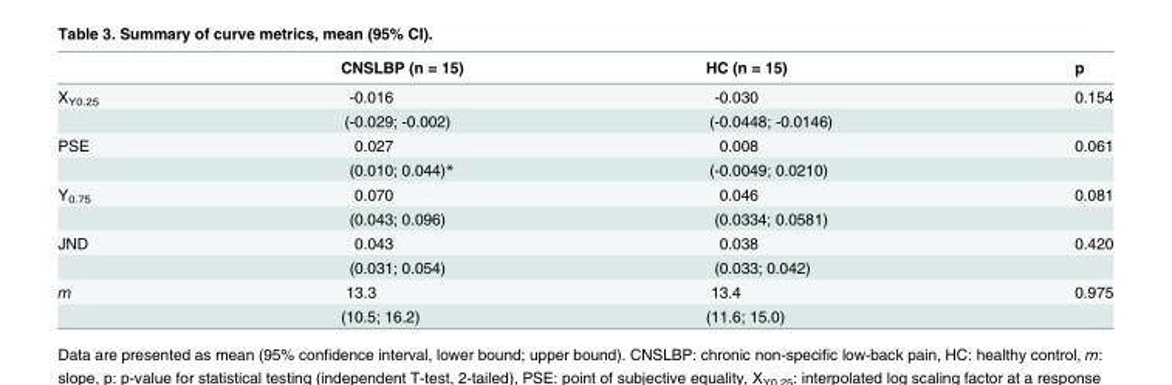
<table><thead><tr><td></td><td>CNSLBP (n = 15)</td><td>HC (n = 15)</td><td>p</td></tr></thead><tbody><tr><td rowspan="2">X<sub>Y0.25</sub></td><td>-0.016</td><td>-0.030</td><td>0.154</td></tr><tr><td>(-0.029; -0.002)</td><td>(-0.0448; -0.0146)</td><td></td></tr><tr><td rowspan="2">PSE</td><td>0.027</td><td>0.008</td><td>0.061</td></tr><tr><td>(0.010; 0.044)*</td><td>(-0.0049; 0.0210)</td><td></td></tr><tr><td rowspan="2">Y<sub>0.75</sub></td><td>0.070</td><td>0.046</td><td>0.081</td></tr><tr><td>(0.043; 0.096)</td><td>(0.0334; 0.0581)</td><td></td></tr><tr><td rowspan="2">JND</td><td>0.043</td><td>0.038</td><td>0.420</td></tr><tr><td>(0.031; 0.054)</td><td>(0.033; 0.042)</td><td></td></tr><tr><td rowspan="2">m</td><td>13.3</td><td>13.4</td><td>0.975</td></tr><tr><td>(10.5; 16.2)</td><td>(11.6; 15.0)</td><td></td></tr></tbody></table>